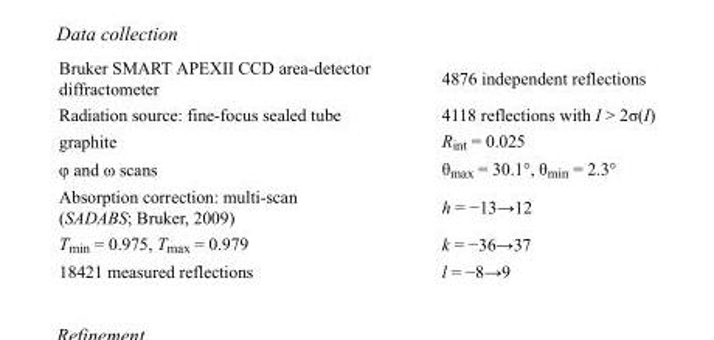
<table><tbody><tr><td>Bruker SMART APEXII CCD area-detector diffractometer</td><td>4876 independent reflections</td></tr><tr><td>Radiation source: fine-focus sealed tube</td><td>4118 reflections with I &gt; 2σ(I)</td></tr><tr><td>graphite</td><td>R<sub>int</sub> = 0.025</td></tr><tr><td>φ and ω scans</td><td>θ<sub>max</sub> = 30.1°, θ<sub>min</sub> = 2.3°</td></tr><tr><td>Absorption correction: multi-scan (SADABS; Bruker, 2009)</td><td>h = −13→12</td></tr><tr><td>T<sub>min</sub> = 0.975, T<sub>max</sub> = 0.979</td><td>k = −36→37</td></tr><tr><td>18421 measured reflections</td><td>l = −8→9</td></tr></tbody></table>